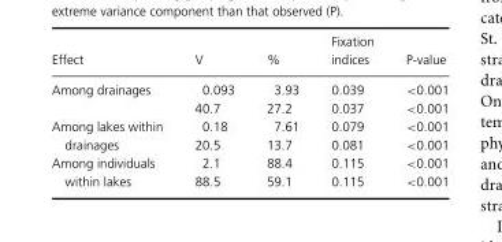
<table><thead><tr><td>Effect</td><td>V</td><td>%</td><td>indices</td><td>P-value</td></tr></thead><tbody><tr><td rowspan="2">Among drainages</td><td>0.093</td><td>3.93</td><td>0.039</td><td>&lt;0.001</td></tr><tr><td>40.7</td><td>27.2</td><td>0.037</td><td>&lt;0.001</td></tr><tr><td>Among lakes within</td><td>0.18</td><td>7.61</td><td>0.079</td><td>&lt;0.001</td></tr><tr><td>drainages</td><td>20.5</td><td>13.7</td><td>0.081</td><td>&lt;0.001</td></tr><tr><td>Among individuals</td><td>2.1</td><td>88.4</td><td>0.115</td><td>&lt;0.001</td></tr><tr><td>within lakes</td><td>88.5</td><td>59.1</td><td>0.115</td><td>&lt;0.001</td></tr></tbody></table>